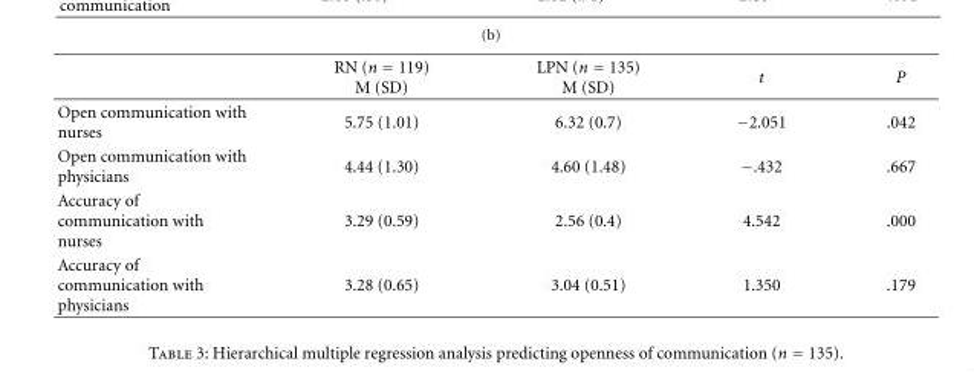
<table><thead><tr><td></td><td>RN (n = 119) M (SD)</td><td>LPN (n = 135) M (SD)</td><td>t</td><td>P</td></tr></thead><tbody><tr><td>Open communication with nurses</td><td>5.75 (1.01)</td><td>6.32 (0.7)</td><td>−2.051</td><td>.042</td></tr><tr><td>Open communication with physicians</td><td>4.44 (1.30)</td><td>4.60 (1.48)</td><td>−.432</td><td>.667</td></tr><tr><td>Accuracy of communication with nurses</td><td>3.29 (0.59)</td><td>2.56 (0.4)</td><td>4.542</td><td>.000</td></tr><tr><td>Accuracy of communication with physicians</td><td>3.28 (0.65)</td><td>3.04 (0.51)</td><td>1.350</td><td>.179</td></tr></tbody></table>